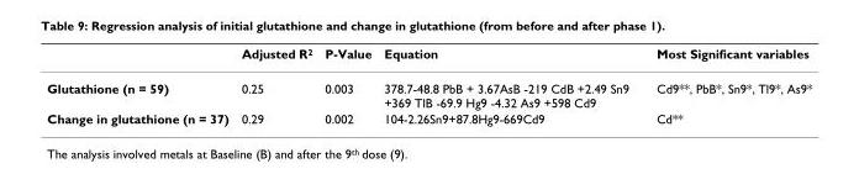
<table><thead><tr><td></td><td>Adjusted R<sup>2</sup></td><td>P-Value</td><td>Equation</td><td>Most Significant variables</td></tr></thead><tbody><tr><td>Glutathione (n = 59)</td><td>0.25</td><td>0.003</td><td>378.7-48.8 PbB + 3.67AsB -219 CdB +2.49 Sn9 +369 TlB -69.9 Hg9 -4.32 As9 +598 Cd9</td><td>Cd9**, PbB*, Sn9*, Tl9*, As9*</td></tr><tr><td>Change in glutathione (n = 37)</td><td>0.29</td><td>0.002</td><td>104-2.26Sn9+87.8Hg9-669Cd9</td><td>Cd**</td></tr></tbody></table>